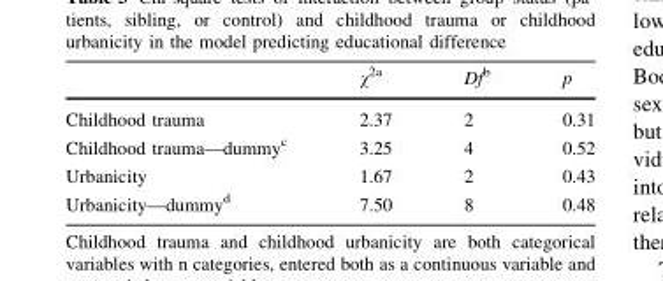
<table><thead><tr><td></td><td>χ<sup>2a</sup></td><td>Df<sup>b</sup></td><td>p</td></tr></thead><tbody><tr><td>Childhood trauma</td><td>2.37</td><td>2</td><td>0.31</td></tr><tr><td>Childhood trauma—dummy<sup>c</sup></td><td>3.25</td><td>4</td><td>0.52</td></tr><tr><td>Urbanicity</td><td>1.67</td><td>2</td><td>0.43</td></tr><tr><td>Urbanicity—dummy<sup>d</sup></td><td>7.50</td><td>8</td><td>0.48</td></tr></tbody></table>